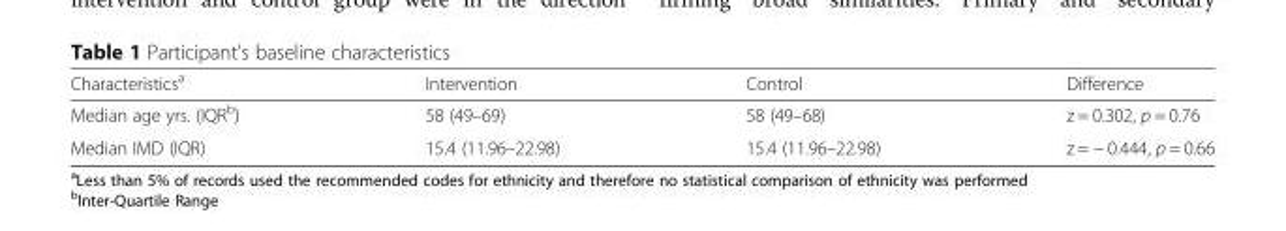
<table><thead><tr><td>Characteristics<sup>a</sup></td><td>Intervention</td><td>Control</td><td>Difference</td></tr></thead><tbody><tr><td>Median age yrs. (IQR<sup>b</sup>)</td><td>58 (49–69)</td><td>58 (49–68)</td><td>z = 0.302, p = 0.76</td></tr><tr><td>Median IMD (IQR)</td><td>15.4 (11.96–22.98)</td><td>15.4 (11.96–22.98)</td><td>z = − 0.444, p = 0.66</td></tr></tbody></table>